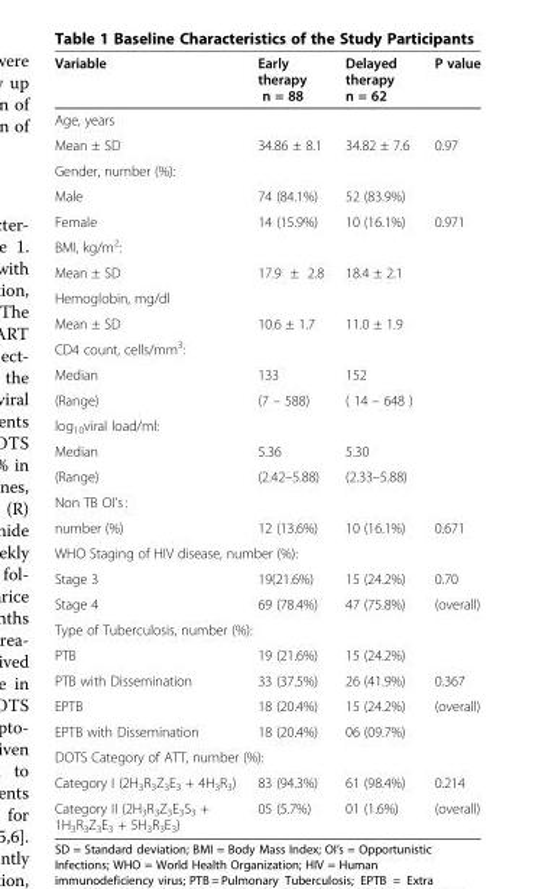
<table><thead><tr><td>Variable</td><td>Early therapy n = 88</td><td>Delayed therapy n = 62</td><td>P value</td></tr></thead><tbody><tr><td colspan="4">Age, years</td></tr><tr><td>Mean ± SD</td><td>34.86 ± 8.1</td><td>34.82 ± 7.6</td><td>0.97</td></tr><tr><td colspan="4">Gender, number (%):</td></tr><tr><td>Male</td><td>74 (84.1%)</td><td>52 (83.9%)</td><td></td></tr><tr><td>Female</td><td>14 (15.9%)</td><td>10 (16.1%)</td><td>0.971</td></tr><tr><td colspan="4">BMI, kg/m<sup>2</sup>:</td></tr><tr><td>Mean ± SD</td><td>17.9 ± 2.8</td><td>18.4 ± 2.1</td><td></td></tr><tr><td colspan="4">Hemoglobin, mg/dl</td></tr><tr><td>Mean ± SD</td><td>10.6 ± 1.7</td><td>11.0 ± 1.9</td><td></td></tr><tr><td colspan="4">CD4 count, cells/mm<sup>3</sup>:</td></tr><tr><td>Median</td><td>133</td><td>152</td><td></td></tr><tr><td>(Range)</td><td>(7 – 588)</td><td>( 14 – 648 )</td><td></td></tr><tr><td colspan="4">log<sub>10</sub>viral load/ml:</td></tr><tr><td>Median</td><td>5.36</td><td>5.30</td><td></td></tr><tr><td>(Range)</td><td>(2.42–5.88)</td><td>(2.33–5.88)</td><td></td></tr><tr><td colspan="4">Non TB OI’s :</td></tr><tr><td>number (%)</td><td>12 (13.6%)</td><td>10 (16.1%)</td><td>0.671</td></tr><tr><td colspan="4">WHO Staging of HIV disease, number (%):</td></tr><tr><td>Stage 3</td><td>19(21.6%)</td><td>15 (24.2%)</td><td>0.70</td></tr><tr><td>Stage 4</td><td>69 (78.4%)</td><td>47 (75.8%)</td><td>(overall)</td></tr><tr><td colspan="4">Type of Tuberculosis, number (%):</td></tr><tr><td>PTB</td><td>19 (21.6%)</td><td>15 (24.2%)</td><td></td></tr><tr><td>PTB with Dissemination</td><td>33 (37.5%)</td><td>26 (41.9%)</td><td>0.367</td></tr><tr><td>EPTB</td><td>18 (20.4%)</td><td>15 (24.2%)</td><td>(overall)</td></tr><tr><td>EPTB with Dissemination</td><td>18 (20.4%)</td><td>06 (09.7%)</td><td></td></tr><tr><td colspan="4">DOTS Category of ATT, number (%):</td></tr><tr><td>Category I (2H<sub>3</sub>R<sub>3</sub>Z<sub>3</sub>E<sub>3</sub> + 4H<sub>3</sub>R<sub>3</sub>)</td><td>83 (94.3%)</td><td>61 (98.4%)</td><td>0.214</td></tr><tr><td>Category II (2H<sub>3</sub>R<sub>3</sub>Z<sub>3</sub>E<sub>3</sub>S<sub>3</sub> + 1H<sub>3</sub>R<sub>3</sub>Z<sub>3</sub>E<sub>3</sub> + 5H<sub>3</sub>R<sub>3</sub>E<sub>3</sub>)</td><td>05 (5.7%)</td><td>01 (1.6%)</td><td>(overall)</td></tr></tbody></table>